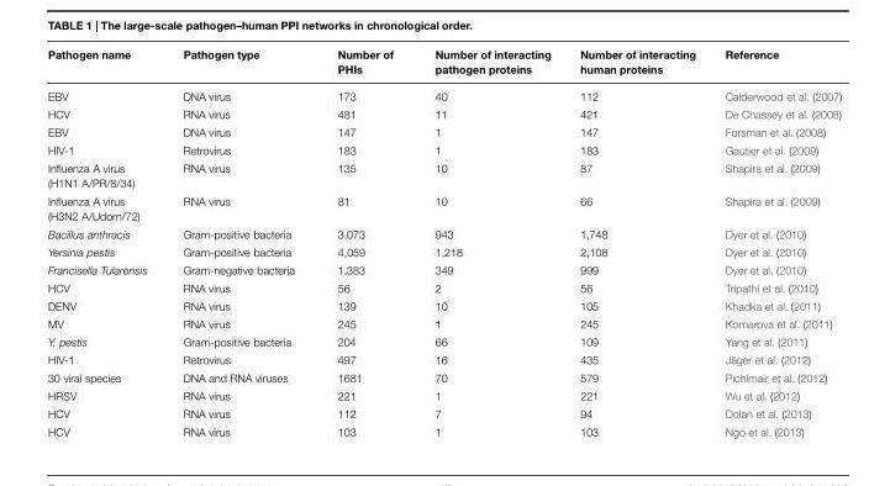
<table><thead><tr><td>Pathogen name</td><td>Pathogen type</td><td>Number of PHIs</td><td>Number of interacting pathogen proteins</td><td>Number of interacting human proteins</td><td>Reference</td></tr></thead><tbody><tr><td>EBV</td><td>DNA virus</td><td>173</td><td>40</td><td>112</td><td>Calderwood et al. (2007)</td></tr><tr><td>HCV</td><td>RNA virus</td><td>481</td><td>11</td><td>421</td><td>De Chassey et al. (2008)</td></tr><tr><td>EBV</td><td>DNA virus</td><td>147</td><td>1</td><td>147</td><td>Forsman et al. (2008)</td></tr><tr><td>HIV-1</td><td>Retrovirus</td><td>183</td><td>1</td><td>183</td><td>Gautier et al. (2009)</td></tr><tr><td>Influenza A virus (H1N1 A/PR/8/34)</td><td>RNA virus</td><td>135</td><td>10</td><td>87</td><td>Shapira et al. (2009)</td></tr><tr><td>Influenza A virus (H3N2 A/Udorn/72)</td><td>RNA virus</td><td>81</td><td>10</td><td>66</td><td>Shapira et al. (2009)</td></tr><tr><td>Bacillus anthracis</td><td>Gram-positive bacteria</td><td>3,073</td><td>943</td><td>1,748</td><td>Dyer et al. (2010)</td></tr><tr><td>Yersinia pestis</td><td>Gram-positive bacteria</td><td>4,059</td><td>1,218</td><td>2,108</td><td>Dyer et al. (2010)</td></tr><tr><td>Francisella Tularensis</td><td>Gram-negative bacteria</td><td>1,383</td><td>349</td><td>999</td><td>Dyer et al. (2010)</td></tr><tr><td>HCV</td><td>RNA virus</td><td>56</td><td>2</td><td>56</td><td>Tripathi et al. (2010)</td></tr><tr><td>DENV</td><td>RNA virus</td><td>139</td><td>10</td><td>105</td><td>Khadka et al. (2011)</td></tr><tr><td>MV</td><td>RNA virus</td><td>245</td><td>1</td><td>245</td><td>Komarova et al. (2011)</td></tr><tr><td>Y. pestis</td><td>Gram-positive bacteria</td><td>204</td><td>66</td><td>109</td><td>Yang et al. (2011)</td></tr><tr><td>HIV-1</td><td>Retrovirus</td><td>497</td><td>16</td><td>435</td><td>Jäger et al. (2012)</td></tr><tr><td>30 viral species</td><td>DNA and RNA viruses</td><td>1681</td><td>70</td><td>579</td><td>Pichlmair et al. (2012)</td></tr><tr><td>HRSV</td><td>RNA virus</td><td>221</td><td>1</td><td>221</td><td>Wu et al. (2012)</td></tr><tr><td>HCV</td><td>RNA virus</td><td>112</td><td>7</td><td>94</td><td>Dolan et al. (2013)</td></tr><tr><td>HCV</td><td>RNA virus</td><td>103</td><td>1</td><td>103</td><td>Ngo et al. (2013)</td></tr></tbody></table>